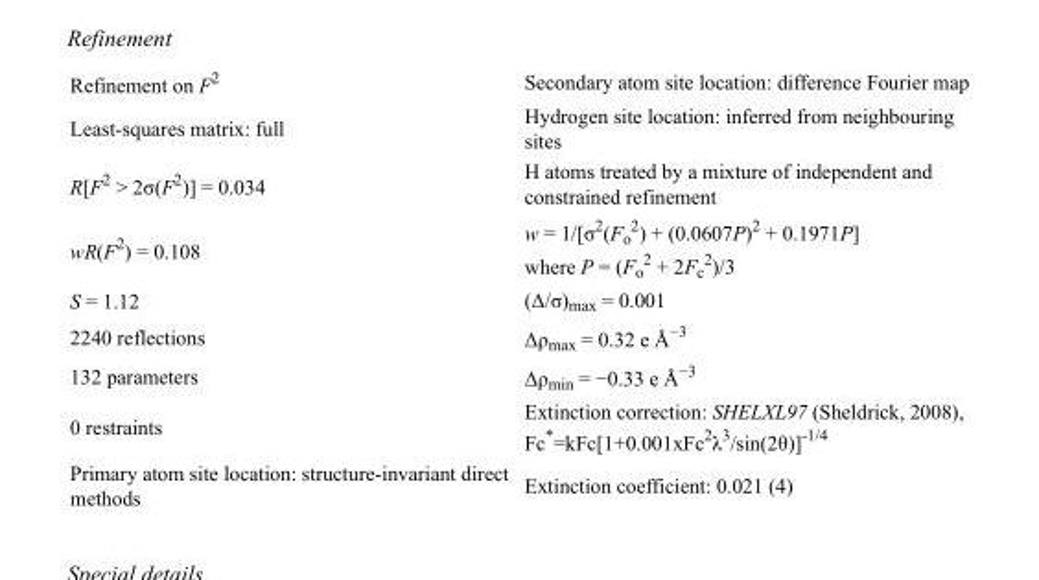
<table><tbody><tr><td>Refinement on F<sup>2</sup></td><td>Secondary atom site location: difference Fourier map</td></tr><tr><td>Least-squares matrix: full</td><td>Hydrogen site location: inferred from neighbouring sites</td></tr><tr><td>R[F<sup>2</sup> &gt; 2σ(F<sup>2</sup>)] = 0.034</td><td>H atoms treated by a mixture of independent and constrained refinement</td></tr><tr><td>wR(F<sup>2</sup>) = 0.108</td><td>w = 1/[σ<sup>2</sup>(F<sub>o</sub> <sup>2</sup>) + (0.0607P)<sup>2</sup> + 0.1971P] where P = (F<sub>o</sub> <sup>2</sup> + 2F<sub>c</sub> <sup>2</sup>)/3</td></tr><tr><td>S = 1.12</td><td>(Δ/σ)<sub>max</sub> = 0.001</td></tr><tr><td>2240 reflections</td><td>Δρ<sub>max</sub> = 0.32 e Å<sup>−3</sup></td></tr><tr><td>132 parameters</td><td>Δρ<sub>min</sub> = −0.33 e Å<sup>−3</sup></td></tr><tr><td>0 restraints</td><td>Extinction correction: SHELXL97 (Sheldrick, 2008), Fc*=kFc[1+0.001xFc<sup>2</sup>λ<sup>3</sup>/sin(2θ)]<sup>-1/4</sup></td></tr><tr><td>Primary atom site location: structure-invariant direct methods</td><td>Extinction coefficient: 0.021 (4)</td></tr></tbody></table>